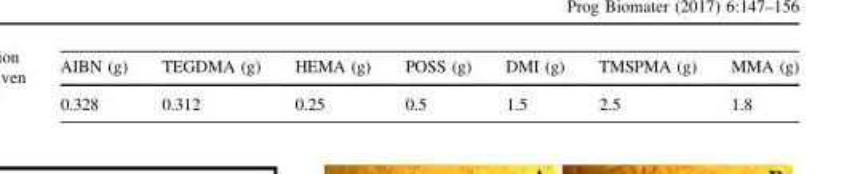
<table><thead><tr><td>AIBN (g)</td><td>TEGDMA (g)</td><td>HEMA (g)</td><td>POSS (g)</td><td>DMI (g)</td><td>TMSPMA (g)</td><td>MMA (g)</td></tr></thead><tbody><tr><td>0.328</td><td>0.312</td><td>0.25</td><td>0.5</td><td>1.5</td><td>2.5</td><td>1.8</td></tr></tbody></table>